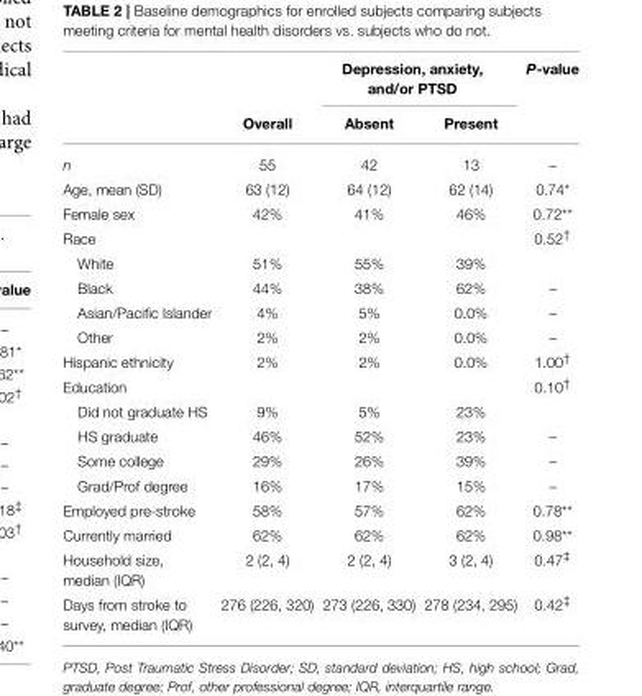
<table><thead><tr><td rowspan="2"></td><td rowspan="2">Overall</td><td colspan="2">Depression, anxiety, and/or PTSD</td><td rowspan="2">P-value</td></tr><tr><td>Absent</td><td>Present</td></tr></thead><tbody><tr><td>n</td><td>55</td><td>42</td><td>13</td><td>–</td></tr><tr><td>Age, mean (SD)</td><td>63 (12)</td><td>64 (12)</td><td>62 (14)</td><td>0.74*</td></tr><tr><td>Female sex</td><td>42%</td><td>41%</td><td>46%</td><td>0.72**</td></tr><tr><td>Race</td><td></td><td></td><td></td><td>0.52<sup>†</sup></td></tr><tr><td>White</td><td>51%</td><td>55%</td><td>39%</td><td></td></tr><tr><td>Black</td><td>44%</td><td>38%</td><td>62%</td><td>–</td></tr><tr><td>Asian/Pacific Islander</td><td>4%</td><td>5%</td><td>0.0%</td><td>–</td></tr><tr><td>Other</td><td>2%</td><td>2%</td><td>0.0%</td><td>–</td></tr><tr><td>Hispanic ethnicity</td><td>2%</td><td>2%</td><td>0.0%</td><td>1.00<sup>†</sup></td></tr><tr><td>Education</td><td></td><td></td><td></td><td>0.10<sup>†</sup></td></tr><tr><td>Did not graduate HS</td><td>9%</td><td>5%</td><td>23%</td><td></td></tr><tr><td>HS graduate</td><td>46%</td><td>52%</td><td>23%</td><td>–</td></tr><tr><td>Some college</td><td>29%</td><td>26%</td><td>39%</td><td>–</td></tr><tr><td>Grad/Prof degree</td><td>16%</td><td>17%</td><td>15%</td><td>–</td></tr><tr><td>Employed pre-stroke</td><td>58%</td><td>57%</td><td>62%</td><td>0.78**</td></tr><tr><td>Currently married</td><td>62%</td><td>62%</td><td>62%</td><td>0.98**</td></tr><tr><td>Household size, median (IQR)</td><td>2 (2, 4)</td><td>2 (2, 4)</td><td>3 (2, 4)</td><td>0.47<sup>‡</sup></td></tr><tr><td>Days from stroke to survey, median (IQR)</td><td>276 (226, 320)</td><td>273 (226, 330)</td><td>278 (234, 295)</td><td>0.42<sup>‡</sup></td></tr></tbody></table>